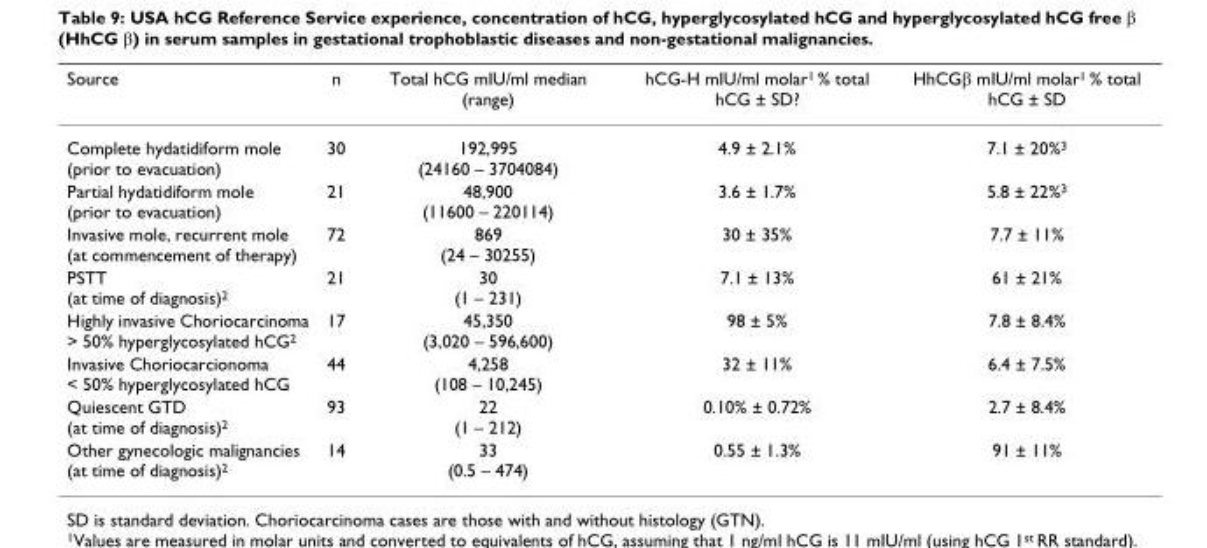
<table><thead><tr><td>Source</td><td>n</td><td>Total hCG mIU/ml median (range)</td><td>hCG-H mIU/ml molar<sup>1</sup> % total hCG ± SD?</td><td>HhCGβ mIU/ml molar<sup>1</sup> % total hCG ± SD</td></tr></thead><tbody><tr><td>Complete hydatidiform mole (prior to evacuation)</td><td>30</td><td>192,995 (24160 – 3704084)</td><td>4.9 ± 2.1%</td><td>7.1 ± 20%<sup>3</sup></td></tr><tr><td>Partial hydatidiform mole (prior to evacuation)</td><td>21</td><td>48,900 (11600 – 220114)</td><td>3.6 ± 1.7%</td><td>5.8 ± 22%<sup>3</sup></td></tr><tr><td>Invasive mole, recurrent mole (at commencement of therapy)</td><td>72</td><td>869 (24 – 30255)</td><td>30 ± 35%</td><td>7.7 ± 11%</td></tr><tr><td>PSTT (at time of diagnosis)<sup>2</sup></td><td>21</td><td>30 (1 – 231)</td><td>7.1 ± 13%</td><td>61 ± 21%</td></tr><tr><td>Highly invasive Choriocarcinoma &gt; 50% hyperglycosylated hCG<sup>2</sup></td><td>17</td><td>45,350 (3,020 – 596,600)</td><td>98 ± 5%</td><td>7.8 ± 8.4%</td></tr><tr><td>Invasive Choriocarcionoma &lt; 50% hyperglycosylated hCG</td><td>44</td><td>4,258 (108 – 10,245)</td><td>32 ± 11%</td><td>6.4 ± 7.5%</td></tr><tr><td>Quiescent GTD (at time of diagnosis)<sup>2</sup></td><td>93</td><td>22 (1 – 212)</td><td>0.10% ± 0.72%</td><td>2.7 ± 8.4%</td></tr><tr><td>Other gynecologic malignancies (at time of diagnosis)<sup>2</sup></td><td>14</td><td>33 (0.5 – 474)</td><td>0.55 ± 1.3%</td><td>91 ± 11%</td></tr></tbody></table>